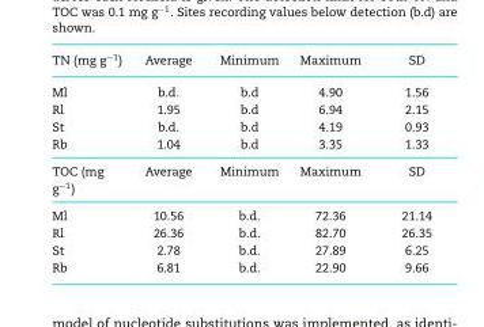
<table><thead><tr><td>TN (mg g<sup>−1</sup>)</td><td>Average</td><td>Minimum</td><td>Maximum</td><td>SD</td></tr></thead><tbody><tr><td>Ml</td><td>b.d.</td><td>b.d</td><td>4.90</td><td>1.56</td></tr><tr><td>Rl</td><td>1.95</td><td>b.d</td><td>6.94</td><td>2.15</td></tr><tr><td>St</td><td>b.d.</td><td>b.d</td><td>4.19</td><td>0.93</td></tr><tr><td>Rb</td><td>1.04</td><td>b.d</td><td>3.35</td><td>1.33</td></tr><tr><td>TOC (mg g<sup>−1</sup>)</td><td>Average</td><td>Minimum</td><td>Maximum</td><td>SD</td></tr><tr><td>Ml</td><td>10.56</td><td>b.d.</td><td>72.36</td><td>21.14</td></tr><tr><td>Rl</td><td>26.36</td><td>b.d.</td><td>82.70</td><td>26.35</td></tr><tr><td>St</td><td>2.78</td><td>b.d.</td><td>27.89</td><td>6.25</td></tr><tr><td>Rb</td><td>6.81</td><td>b.d.</td><td>22.90</td><td>9.66</td></tr></tbody></table>